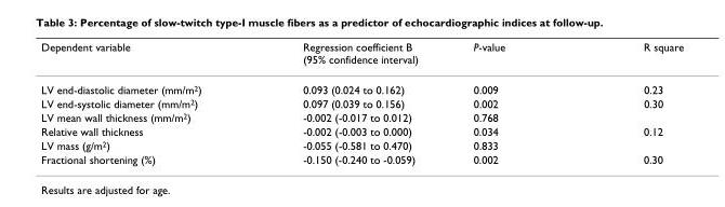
<table><thead><tr><td>Dependent variable</td><td>Regression coefficient B (95% confidence interval)</td><td>P-value</td><td>R square</td></tr></thead><tbody><tr><td>LV end-diastolic diameter (mm/m<sup>2</sup>)</td><td>0.093 (0.024 to 0.162)</td><td>0.009</td><td>0.23</td></tr><tr><td>LV end-systolic diameter (mm/m<sup>2</sup>)</td><td>0.097 (0.039 to 0.156)</td><td>0.002</td><td>0.30</td></tr><tr><td>LV mean wall thickness (mm/m<sup>2</sup>)</td><td>-0.002 (-0.017 to 0.012)</td><td>0.768</td><td></td></tr><tr><td>Relative wall thickness</td><td>-0.002 (-0.003 to 0.000)</td><td>0.034</td><td>0.12</td></tr><tr><td>LV mass (g/m<sup>2</sup>)</td><td>-0.055 (-0.581 to 0.470)</td><td>0.833</td><td></td></tr><tr><td>Fractional shortening (%)</td><td>-0.150 (-0.240 to -0.059)</td><td>0.002</td><td>0.30</td></tr></tbody></table>